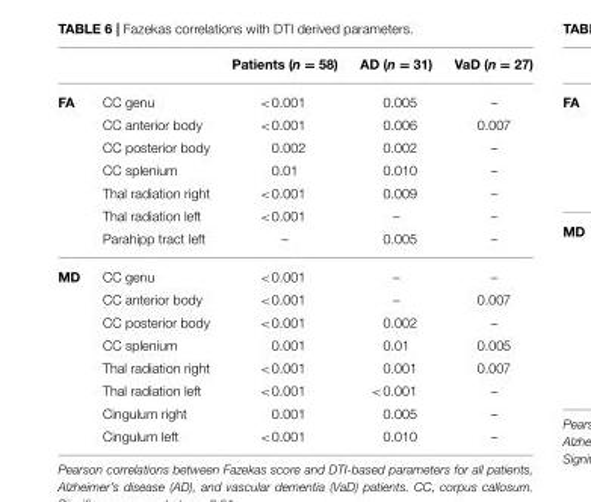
<table><thead><tr><td></td><td></td><td>Patients (n = 58)</td><td>AD (n = 31)</td><td>VaD (n = 27)</td></tr></thead><tbody><tr><td rowspan="7">FA</td><td>CC genu</td><td>&lt;0.001</td><td>0.005</td><td>–</td></tr><tr><td>CC anterior body</td><td>&lt;0.001</td><td>0.006</td><td>0.007</td></tr><tr><td>CC posterior body</td><td>0.002</td><td>0.002</td><td>–</td></tr><tr><td>CC splenium</td><td>0.01</td><td>0.010</td><td>–</td></tr><tr><td>Thal radiation right</td><td>&lt;0.001</td><td>0.009</td><td>–</td></tr><tr><td>Thal radiation left</td><td>&lt;0.001</td><td>–</td><td>–</td></tr><tr><td>Parahipp tract left</td><td>–</td><td>0.005</td><td>–</td></tr><tr><td rowspan="8">MD</td><td>CC genu</td><td>&lt;0.001</td><td>–</td><td>–</td></tr><tr><td>CC anterior body</td><td>&lt;0.001</td><td>–</td><td>0.007</td></tr><tr><td>CC posterior body</td><td>&lt;0.001</td><td>0.002</td><td>–</td></tr><tr><td>CC splenium</td><td>0.001</td><td>0.01</td><td>0.005</td></tr><tr><td>Thal radiation right</td><td>&lt;0.001</td><td>0.001</td><td>0.007</td></tr><tr><td>Thal radiation left</td><td>&lt;0.001</td><td>&lt;0.001</td><td>–</td></tr><tr><td>Cingulum right</td><td>0.001</td><td>0.005</td><td>–</td></tr><tr><td>Cingulum left</td><td>&lt;0.001</td><td>0.010</td><td>–</td></tr></tbody></table>